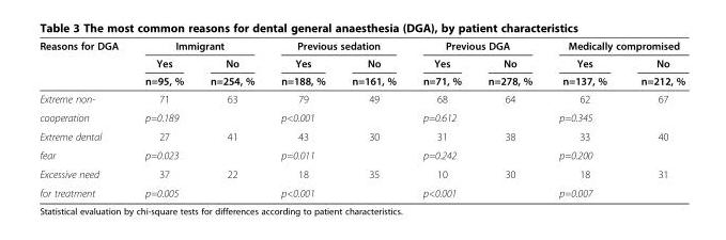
<table><thead><tr><td rowspan="3">Reasons for DGA</td><td colspan="2">Immigrant</td><td colspan="2">Previous sedation</td><td colspan="2">Previous DGA</td><td colspan="2">Medically compromised</td></tr><tr><td rowspan="2">Yes n=95, %</td><td rowspan="2">No n=254, %</td><td rowspan="2">Yes n=188, %</td><td rowspan="2">No n=161, %</td><td rowspan="2">Yes n=71, %</td><td rowspan="2">No n=278, %</td><td rowspan="2">Yes n=137, %</td><td rowspan="2">No n=212, %</td></tr><tr></tr></thead><tbody><tr><td>Extreme non-</td><td>71</td><td>63</td><td>79</td><td>49</td><td>68</td><td>64</td><td>62</td><td>67</td></tr><tr><td>cooperation</td><td>p=0.189</td><td></td><td>p&lt;0.001</td><td></td><td>p=0.612</td><td></td><td>p=0.345</td><td></td></tr><tr><td>Extreme dental</td><td>27</td><td>41</td><td>43</td><td>30</td><td>31</td><td>38</td><td>33</td><td>40</td></tr><tr><td>fear</td><td>p=0.023</td><td></td><td>p=0.011</td><td></td><td>p=0.242</td><td></td><td>p=0.200</td><td></td></tr><tr><td>Excessive need</td><td>37</td><td>22</td><td>18</td><td>35</td><td>10</td><td>30</td><td>18</td><td>31</td></tr><tr><td>for treatment</td><td>p=0.005</td><td></td><td>p&lt;0.001</td><td></td><td>p&lt;0.001</td><td></td><td>p=0.007</td><td></td></tr></tbody></table>